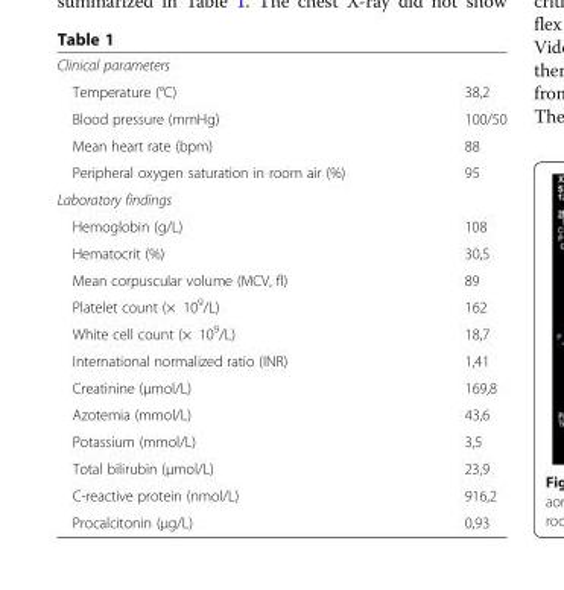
<table><tbody><tr><td colspan="2">Clinical parameters</td></tr><tr><td>Temperature (°C)</td><td>38,2</td></tr><tr><td>Blood pressure (mmHg)</td><td>100/50</td></tr><tr><td>Mean heart rate (bpm)</td><td>88</td></tr><tr><td>Peripheral oxygen saturation in room air (%)</td><td>95</td></tr><tr><td colspan="2">Laboratory findings</td></tr><tr><td>Hemoglobin (g/L)</td><td>108</td></tr><tr><td>Hematocrit (%)</td><td>30,5</td></tr><tr><td>Mean corpuscular volume (MCV, fl)</td><td>89</td></tr><tr><td>Platelet count (× 10<sup>9</sup>/L)</td><td>162</td></tr><tr><td>White cell count (× 10<sup>9</sup>/L)</td><td>18,7</td></tr><tr><td>International normalized ratio (INR)</td><td>1,41</td></tr><tr><td>Creatinine (μmol/L)</td><td>169,8</td></tr><tr><td>Azotemia (mmol/L)</td><td>43,6</td></tr><tr><td>Potassium (mmol/L)</td><td>3,5</td></tr><tr><td>Total bilirubin (μmol/L)</td><td>23,9</td></tr><tr><td>C-reactive protein (nmol/L)</td><td>916,2</td></tr><tr><td>Procalcitonin (μg/L)</td><td>0,93</td></tr></tbody></table>